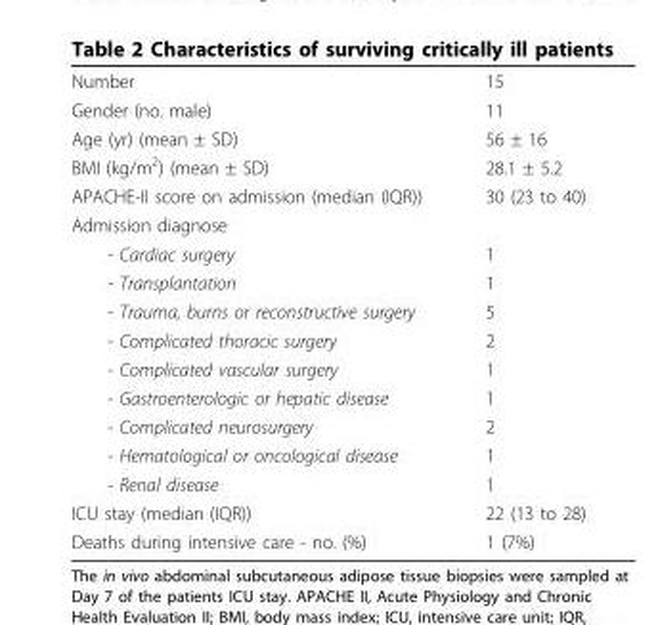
<table><tbody><tr><td>Number</td><td>15</td></tr><tr><td>Gender (no. male)</td><td>11</td></tr><tr><td>Age (yr) (mean ± SD)</td><td>56 ± 16</td></tr><tr><td>BMI (kg/m<sup>2</sup>) (mean ± SD)</td><td>28.1 ± 5.2</td></tr><tr><td>APACHE-II score on admission (median (IQR))</td><td>30 (23 to 40)</td></tr><tr><td colspan="2">Admission diagnose</td></tr><tr><td>- Cardiac surgery</td><td>1</td></tr><tr><td>- Transplantation</td><td>1</td></tr><tr><td>- Trauma, burns or reconstructive surgery</td><td>5</td></tr><tr><td>- Complicated thoracic surgery</td><td>2</td></tr><tr><td>- Complicated vascular surgery</td><td>1</td></tr><tr><td>- Gastroenterologic or hepatic disease</td><td>1</td></tr><tr><td>- Complicated neurosurgery</td><td>2</td></tr><tr><td>- Hematological or oncological disease</td><td>1</td></tr><tr><td>- Renal disease</td><td>1</td></tr><tr><td>ICU stay (median (IQR))</td><td>22 (13 to 28)</td></tr><tr><td>Deaths during intensive care - no. (%)</td><td>1 (7%)</td></tr></tbody></table>